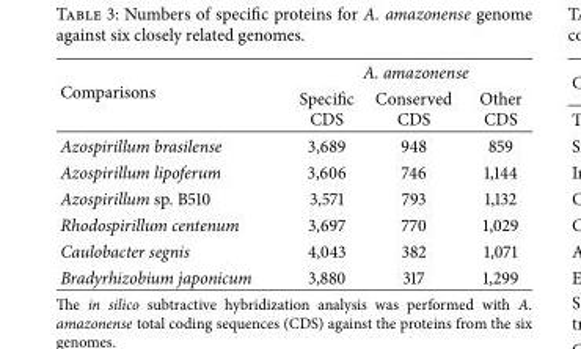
<table><thead><tr><td rowspan="2">Comparisons</td><td colspan="3">A. amazonense</td></tr><tr><td>Specific CDS</td><td>Conserved CDS</td><td>Other CDS</td></tr></thead><tbody><tr><td>Azospirillum brasilense</td><td>3,689</td><td>948</td><td>859</td></tr><tr><td>Azospirillum lipoferum</td><td>3,606</td><td>746</td><td>1,144</td></tr><tr><td>Azospirillum sp. B510</td><td>3,571</td><td>793</td><td>1,132</td></tr><tr><td>Rhodospirillum centenum</td><td>3,697</td><td>770</td><td>1,029</td></tr><tr><td>Caulobacter segnis</td><td>4,043</td><td>382</td><td>1,071</td></tr><tr><td>Bradyrhizobium japonicum</td><td>3,880</td><td>317</td><td>1,299</td></tr></tbody></table>